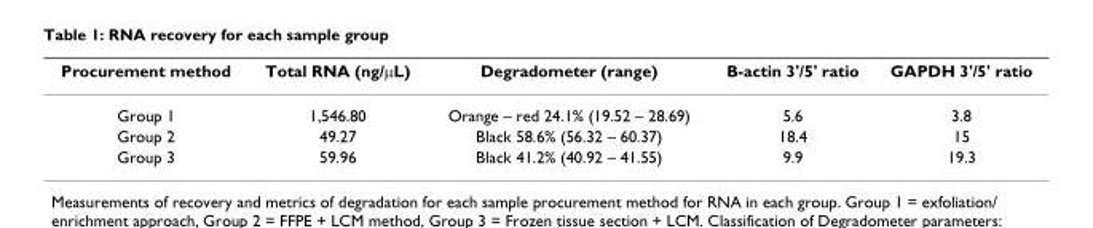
<table><thead><tr><td>Procurement method</td><td>Total RNA (ng/μL)</td><td>Degradometer (range)</td><td>B-actin 3&#x27;/5&#x27; ratio</td><td>GAPDH 3&#x27;/5&#x27; ratio</td></tr></thead><tbody><tr><td>Group 1</td><td>1,546.80</td><td>Orange – red 24.1% (19.52 – 28.69)</td><td>5.6</td><td>3.8</td></tr><tr><td>Group 2</td><td>49.27</td><td>Black 58.6% (56.32 – 60.37)</td><td>18.4</td><td>15</td></tr><tr><td>Group 3</td><td>59.96</td><td>Black 41.2% (40.92 – 41.55)</td><td>9.9</td><td>19.3</td></tr></tbody></table>